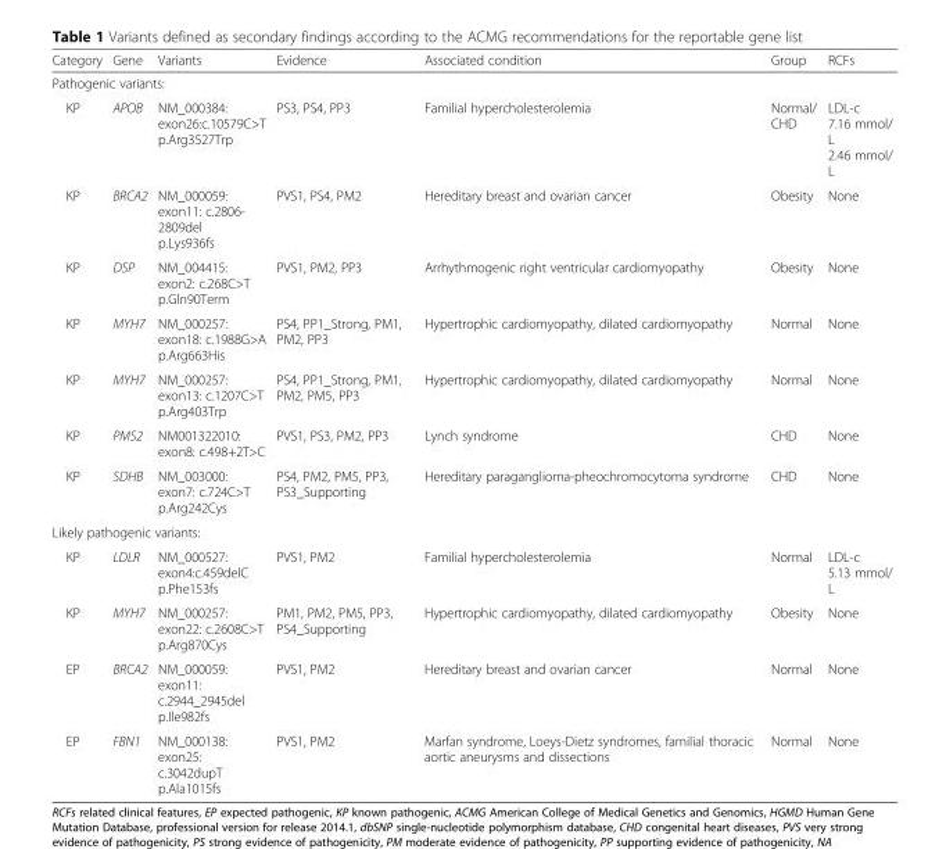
<table><thead><tr><td>Category</td><td>Gene</td><td>Variants</td><td>Evidence</td><td>Associated condition</td><td>Group</td><td>RCFs</td></tr></thead><tbody><tr><td colspan="7">Pathogenic variants:</td></tr><tr><td>KP</td><td>APOB</td><td>NM_000384: exon26:c.10579C&gt;T p.Arg3527Trp</td><td>PS3, PS4, PP3</td><td>Familial hypercholesterolemia</td><td>Normal/ CHD</td><td>LDL-c 7.16 mmol/ L 2.46 mmol/ L</td></tr><tr><td>KP</td><td>BRCA2</td><td>NM_000059: exon11: c.2806- 2809del p.Lys936fs</td><td>PVS1, PS4, PM2</td><td>Hereditary breast and ovarian cancer</td><td>Obesity</td><td>None</td></tr><tr><td>KP</td><td>DSP</td><td>NM_004415: exon2: c.268C&gt;T p.Gln90Term</td><td>PVS1, PM2, PP3</td><td>Arrhythmogenic right ventricular cardiomyopathy</td><td>Obesity</td><td>None</td></tr><tr><td>KP</td><td>MYH7</td><td>NM_000257: exon18: c.1988G&gt;A p.Arg663His</td><td>PS4, PP1_Strong, PM1, PM2, PP3</td><td>Hypertrophic cardiomyopathy, dilated cardiomyopathy</td><td>Normal</td><td>None</td></tr><tr><td>KP</td><td>MYH7</td><td>NM_000257: exon13: c.1207C&gt;T p.Arg403Trp</td><td>PS4, PP1_Strong, PM1, PM2, PM5, PP3</td><td>Hypertrophic cardiomyopathy, dilated cardiomyopathy</td><td>Normal</td><td>None</td></tr><tr><td>KP</td><td>PMS2</td><td>NM001322010: exon8: c.498+2T&gt;C</td><td>PVS1, PS3, PM2, PP3</td><td>Lynch syndrome</td><td>CHD</td><td>None</td></tr><tr><td>KP</td><td>SDHB</td><td>NM_003000: exon7: c.724C&gt;T p.Arg242Cys</td><td>PS4, PM2, PM5, PP3, PS3_Supporting</td><td>Hereditary paraganglioma-pheochromocytoma syndrome</td><td>CHD</td><td>None</td></tr><tr><td colspan="7">Likely pathogenic variants:</td></tr><tr><td>KP</td><td>LDLR</td><td>NM_000527: exon4:c.459delC p.Phe153fs</td><td>PVS1, PM2</td><td>Familial hypercholesterolemia</td><td>Normal</td><td>LDL-c 5.13 mmol/ L</td></tr><tr><td>KP</td><td>MYH7</td><td>NM_000257: exon22: c.2608C&gt;T p.Arg870Cys</td><td>PM1, PM2, PM5, PP3, PS4_Supporting</td><td>Hypertrophic cardiomyopathy, dilated cardiomyopathy</td><td>Obesity</td><td>None</td></tr><tr><td>EP</td><td>BRCA2</td><td>NM_000059: exon11: c.2944_2945del p.Ile982fs</td><td>PVS1, PM2</td><td>Hereditary breast and ovarian cancer</td><td>Normal</td><td>None</td></tr><tr><td>EP</td><td>FBN1</td><td>NM_000138: exon25: c.3042dupT p.Ala1015fs</td><td>PVS1, PM2</td><td>Marfan syndrome, Loeys-Dietz syndromes, familial thoracic aortic aneurysms and dissections</td><td>Normal</td><td>None</td></tr></tbody></table>